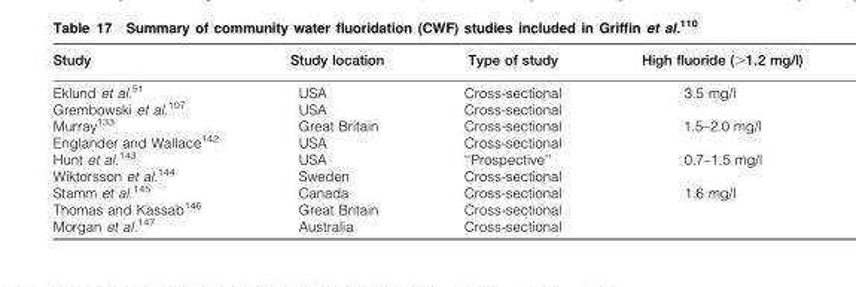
<table><thead><tr><td>Study</td><td>Study location</td><td>Type of study</td><td>High fluoride (&gt;1.2 mg/l)</td></tr></thead><tbody><tr><td>Eklund et al.<sup>51</sup></td><td>USA</td><td>Cross-sectional</td><td>3.5 mg/l</td></tr><tr><td>Grembowski et al.<sup>107</sup></td><td>USA</td><td>Cross-sectional</td><td></td></tr><tr><td>Murray<sup>133</sup></td><td>Great Britain</td><td>Cross-sectional</td><td>1.5–2.0 mg/l</td></tr><tr><td>Englander and Wallace<sup>142</sup></td><td>USA</td><td>Cross-sectional</td><td></td></tr><tr><td>Hunt et al.<sup>143</sup></td><td>USA</td><td>‘‘Prospective’’</td><td>0.7–1.5 mg/l</td></tr><tr><td>Wiktorsson et al.<sup>144</sup></td><td>Sweden</td><td>Cross-sectional</td><td></td></tr><tr><td>Stamm et al.<sup>145</sup></td><td>Canada</td><td>Cross-sectional</td><td>1.6 mg/l</td></tr><tr><td>Thomas and Kassab<sup>146</sup></td><td>Great Britain</td><td>Cross-sectional</td><td></td></tr><tr><td>Morgan et al.<sup>147</sup></td><td>Australia</td><td>Cross-sectional</td><td></td></tr></tbody></table>